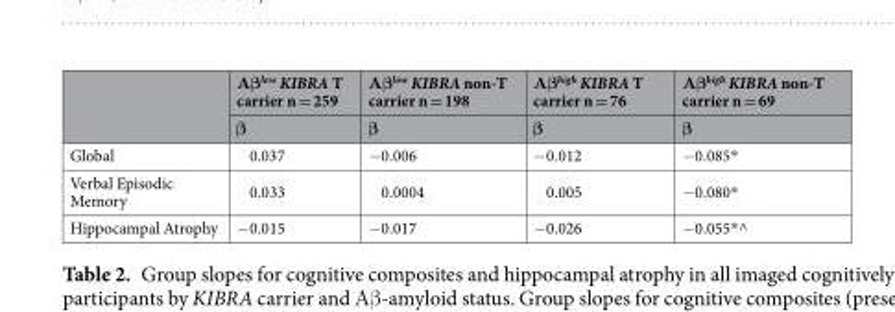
<table><thead><tr><td rowspan="2"></td><td rowspan="2">Αβ<sup>low</sup> KIBRA T carrier n = 259 β</td><td rowspan="2">Αβ<sup>low</sup> KIBRA non-T carrier n = 198 β</td><td rowspan="2">Αβ<sup>high</sup> KIBRA T carrier n = 76 β</td><td rowspan="2">Αβ<sup>high</sup> KIBRA non-T carrier n = 69 β</td></tr><tr></tr></thead><tbody><tr><td>Global</td><td>0.037</td><td>−0.006</td><td>−0.012</td><td>−0.085*</td></tr><tr><td>Verbal Episodic Memory</td><td>0.033</td><td>0.0004</td><td>0.005</td><td>−0.080*</td></tr><tr><td>Hippocampal Atrophy</td><td>−0.015</td><td>−0.017</td><td>−0.026</td><td>−0.055*^</td></tr></tbody></table>